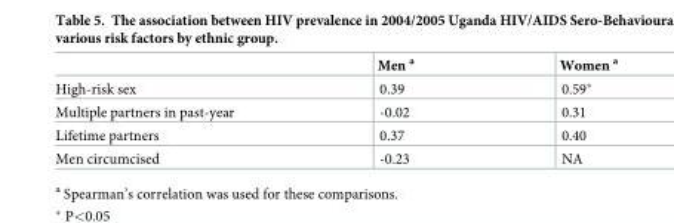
<table><thead><tr><td></td><td>Men <sup>a</sup></td><td>Women <sup>a</sup></td></tr></thead><tbody><tr><td>High-risk sex</td><td>0.39</td><td>0.59*</td></tr><tr><td>Multiple partners in past-year</td><td>-0.02</td><td>0.31</td></tr><tr><td>Lifetime partners</td><td>0.37</td><td>0.40</td></tr><tr><td>Men circumcised</td><td>-0.23</td><td>NA</td></tr></tbody></table>